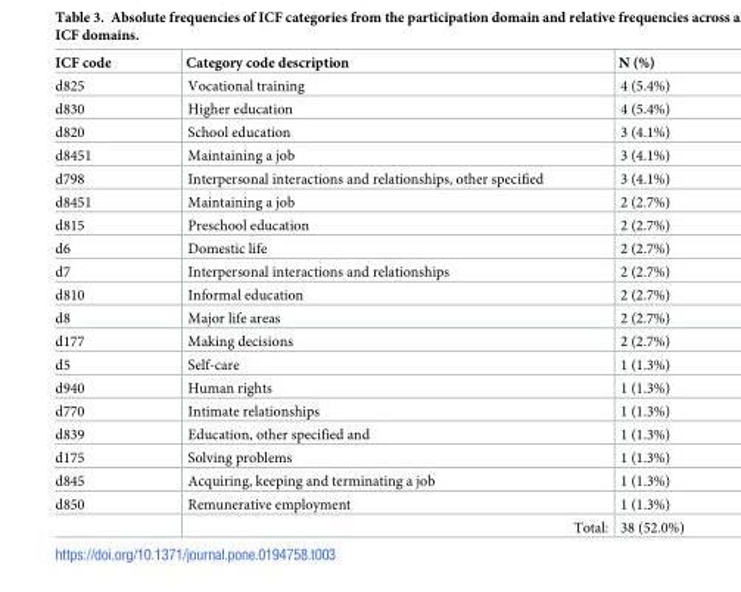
<table><thead><tr><td>ICF code</td><td>Category code description</td><td>N (%)</td></tr></thead><tbody><tr><td>d825</td><td>Vocational training</td><td>4 (5.4%)</td></tr><tr><td>d830</td><td>Higher education</td><td>4 (5.4%)</td></tr><tr><td>d820</td><td>School education</td><td>3 (4.1%)</td></tr><tr><td>d8451</td><td>Maintaining a job</td><td>3 (4.1%)</td></tr><tr><td>d798</td><td>Interpersonal interactions and relationships, other specified</td><td>3 (4.1%)</td></tr><tr><td>d8451</td><td>Maintaining a job</td><td>2 (2.7%)</td></tr><tr><td>d815</td><td>Preschool education</td><td>2 (2.7%)</td></tr><tr><td>d6</td><td>Domestic life</td><td>2 (2.7%)</td></tr><tr><td>d7</td><td>Interpersonal interactions and relationships</td><td>2 (2.7%)</td></tr><tr><td>d810</td><td>Informal education</td><td>2 (2.7%)</td></tr><tr><td>d8</td><td>Major life areas</td><td>2 (2.7%)</td></tr><tr><td>d177</td><td>Making decisions</td><td>2 (2.7%)</td></tr><tr><td>d5</td><td>Self-care</td><td>1 (1.3%)</td></tr><tr><td>d940</td><td>Human rights</td><td>1 (1.3%)</td></tr><tr><td>d770</td><td>Intimate relationships</td><td>1 (1.3%)</td></tr><tr><td>d839</td><td>Education, other specified and</td><td>1 (1.3%)</td></tr><tr><td>d175</td><td>Solving problems</td><td>1 (1.3%)</td></tr><tr><td>d845</td><td>Acquiring, keeping and terminating a job</td><td>1 (1.3%)</td></tr><tr><td rowspan="2">d850</td><td>Remunerative employment</td><td>1 (1.3%)</td></tr><tr><td>Total:</td><td>38 (52.0%)</td></tr></tbody></table>